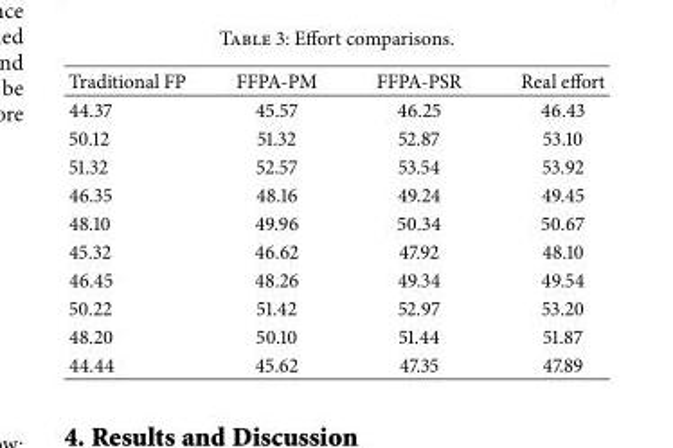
<table><thead><tr><td>Traditional FP</td><td>FFPA-PM</td><td>FFPA-PSR</td><td>Real effort</td></tr></thead><tbody><tr><td>44.37</td><td>45.57</td><td>46.25</td><td>46.43</td></tr><tr><td>50.12</td><td>51.32</td><td>52.87</td><td>53.10</td></tr><tr><td>51.32</td><td>52.57</td><td>53.54</td><td>53.92</td></tr><tr><td>46.35</td><td>48.16</td><td>49.24</td><td>49.45</td></tr><tr><td>48.10</td><td>49.96</td><td>50.34</td><td>50.67</td></tr><tr><td>45.32</td><td>46.62</td><td>47.92</td><td>48.10</td></tr><tr><td>46.45</td><td>48.26</td><td>49.34</td><td>49.54</td></tr><tr><td>50.22</td><td>51.42</td><td>52.97</td><td>53.20</td></tr><tr><td>48.20</td><td>50.10</td><td>51.44</td><td>51.87</td></tr><tr><td>44.44</td><td>45.62</td><td>47.35</td><td>47.89</td></tr></tbody></table>